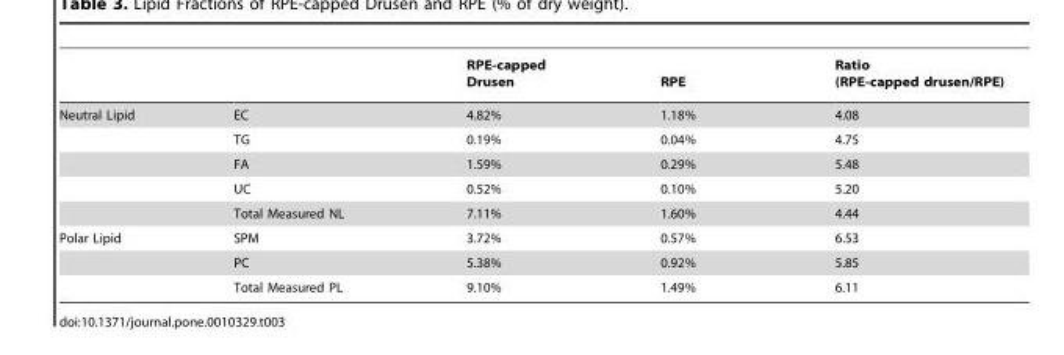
<table><thead><tr><td></td><td></td><td>RPE-capped Drusen</td><td>RPE</td><td>Ratio (RPE-capped drusen/RPE)</td></tr></thead><tbody><tr><td rowspan="5">Neutral Lipid</td><td>EC</td><td>4.82%</td><td>1.18%</td><td>4.08</td></tr><tr><td>TG</td><td>0.19%</td><td>0.04%</td><td>4.75</td></tr><tr><td>FA</td><td>1.59%</td><td>0.29%</td><td>5.48</td></tr><tr><td>UC</td><td>0.52%</td><td>0.10%</td><td>5.20</td></tr><tr><td>Total Measured NL</td><td>7.11%</td><td>1.60%</td><td>4.44</td></tr><tr><td rowspan="3">Polar Lipid</td><td>SPM</td><td>3.72%</td><td>0.57%</td><td>6.53</td></tr><tr><td>PC</td><td>5.38%</td><td>0.92%</td><td>5.85</td></tr><tr><td>Total Measured PL</td><td>9.10%</td><td>1.49%</td><td>6.11</td></tr></tbody></table>